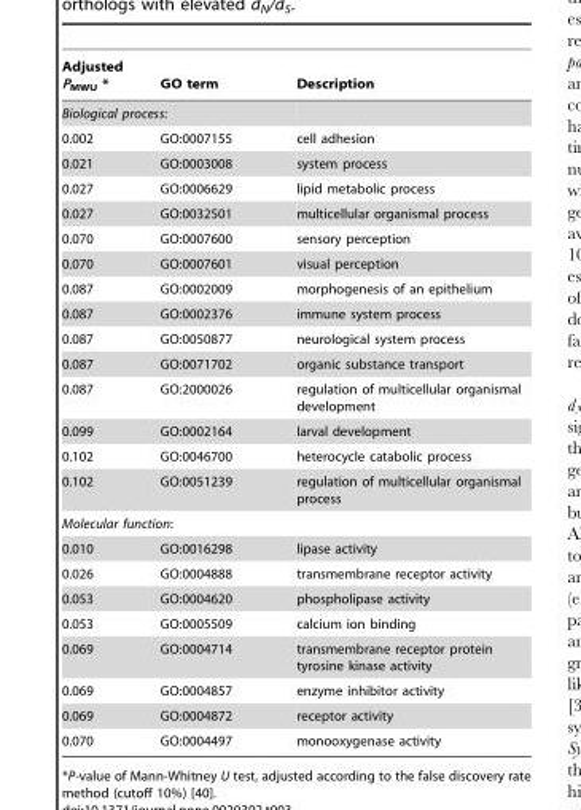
<table><thead><tr><td>Adjusted P<sub>MWU</sub> *</td><td>GO term</td><td>Description</td></tr></thead><tbody><tr><td colspan="3">Biological process:</td></tr><tr><td>0.002</td><td>GO:0007155</td><td>cell adhesion</td></tr><tr><td>0.021</td><td>GO:0003008</td><td>system process</td></tr><tr><td>0.027</td><td>GO:0006629</td><td>lipid metabolic process</td></tr><tr><td>0.027</td><td>GO:0032501</td><td>multicellular organismal process</td></tr><tr><td>0.070</td><td>GO:0007600</td><td>sensory perception</td></tr><tr><td>0.070</td><td>GO:0007601</td><td>visual perception</td></tr><tr><td>0.087</td><td>GO:0002009</td><td>morphogenesis of an epithelium</td></tr><tr><td>0.087</td><td>GO:0002376</td><td>immune system process</td></tr><tr><td>0.087</td><td>GO:0050877</td><td>neurological system process</td></tr><tr><td>0.087</td><td>GO:0071702</td><td>organic substance transport</td></tr><tr><td>0.087</td><td>GO:2000026</td><td>regulation of multicellular organismal development</td></tr><tr><td>0.099</td><td>GO:0002164</td><td>larval development</td></tr><tr><td>0.102</td><td>GO:0046700</td><td>heterocycle catabolic process</td></tr><tr><td>0.102</td><td>GO:0051239</td><td>regulation of multicellular organismal process</td></tr><tr><td colspan="3">Molecular function:</td></tr><tr><td>0.010</td><td>GO:0016298</td><td>lipase activity</td></tr><tr><td>0.026</td><td>GO:0004888</td><td>transmembrane receptor activity</td></tr><tr><td>0.053</td><td>GO:0004620</td><td>phospholipase activity</td></tr><tr><td>0.053</td><td>GO:0005509</td><td>calcium ion binding</td></tr><tr><td>0.069</td><td>GO:0004714</td><td>transmembrane receptor protein tyrosine kinase activity</td></tr><tr><td>0.069</td><td>GO:0004857</td><td>enzyme inhibitor activity</td></tr><tr><td>0.069</td><td>GO:0004872</td><td>receptor activity</td></tr><tr><td>0.070</td><td>GO:0004497</td><td>monooxygenase activity</td></tr></tbody></table>